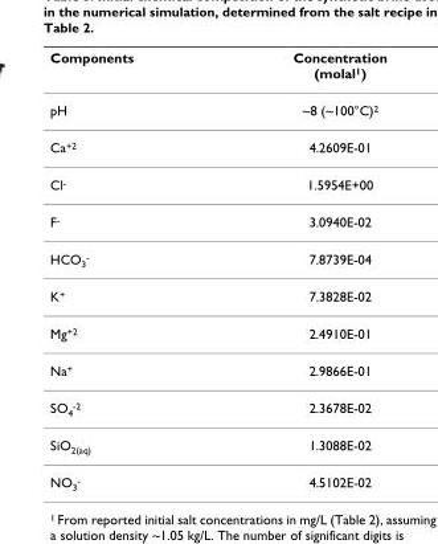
<table><thead><tr><td>Components</td><td>Concentration (molal<sup>1</sup>)</td></tr></thead><tbody><tr><td>pH</td><td>~8 (~100°C)<sup>2</sup></td></tr><tr><td>Ca<sup>+2</sup></td><td>4.2609E-01</td></tr><tr><td>Cl<sup>-</sup></td><td>1.5954E+00</td></tr><tr><td>F<sup>-</sup></td><td>3.0940E-02</td></tr><tr><td>HCO<sub>3</sub><sup>-</sup></td><td>7.8739E-04</td></tr><tr><td>K<sup>+</sup></td><td>7.3828E-02</td></tr><tr><td>Mg<sup>+2</sup></td><td>2.4910E-01</td></tr><tr><td>Na<sup>+</sup></td><td>2.9866E-01</td></tr><tr><td>SO<sub>4</sub><sup>-2</sup></td><td>2.3678E-02</td></tr><tr><td>SiO<sub>2(aq)</sub></td><td>1.3088E-02</td></tr><tr><td>NO<sub>3</sub><sup>-</sup></td><td>4.5102E-02</td></tr></tbody></table>